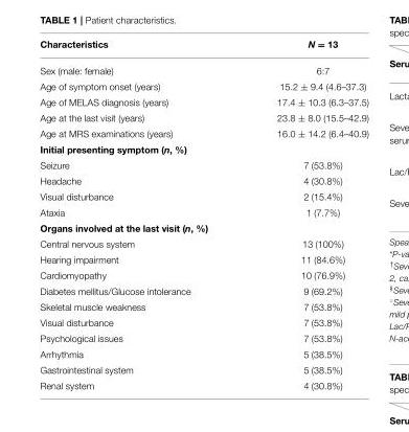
<table><thead><tr><td>Characteristics</td><td>N = 13</td></tr></thead><tbody><tr><td>Sex (male: female)</td><td>6:7</td></tr><tr><td>Age of symptom onset (years)</td><td>15.2 ± 9.4 (4.6–37.3)</td></tr><tr><td>Age of MELAS diagnosis (years)</td><td>17.4 ± 10.3 (6.3–37.5)</td></tr><tr><td>Age at the last visit (years)</td><td>23.8 ± 8.0 (15.5–42.9)</td></tr><tr><td>Age at MRS examinations (years)</td><td>16.0 ± 14.2 (6.4–40.9)</td></tr><tr><td colspan="2">Initial presenting symptom (n, %)</td></tr><tr><td>Seizure</td><td>7 (53.8%)</td></tr><tr><td>Headache</td><td>4 (30.8%)</td></tr><tr><td>Visual disturbance</td><td>2 (15.4%)</td></tr><tr><td>Ataxia</td><td>1 (7.7%)</td></tr><tr><td colspan="2">Organs involved at the last visit (n, %)</td></tr><tr><td>Central nervous system</td><td>13 (100%)</td></tr><tr><td>Hearing impairment</td><td>11 (84.6%)</td></tr><tr><td>Cardiomyopathy</td><td>10 (76.9%)</td></tr><tr><td>Diabetes mellitus/Glucose intolerance</td><td>9 (69.2%)</td></tr><tr><td>Skeletal muscle weakness</td><td>7 (53.8%)</td></tr><tr><td>Visual disturbance</td><td>7 (53.8%)</td></tr><tr><td>Psychological issues</td><td>7 (53.8%)</td></tr><tr><td>Arrhythmia</td><td>5 (38.5%)</td></tr><tr><td>Gastrointestinal system</td><td>5 (38.5%)</td></tr><tr><td>Renal system</td><td>4 (30.8%)</td></tr></tbody></table>